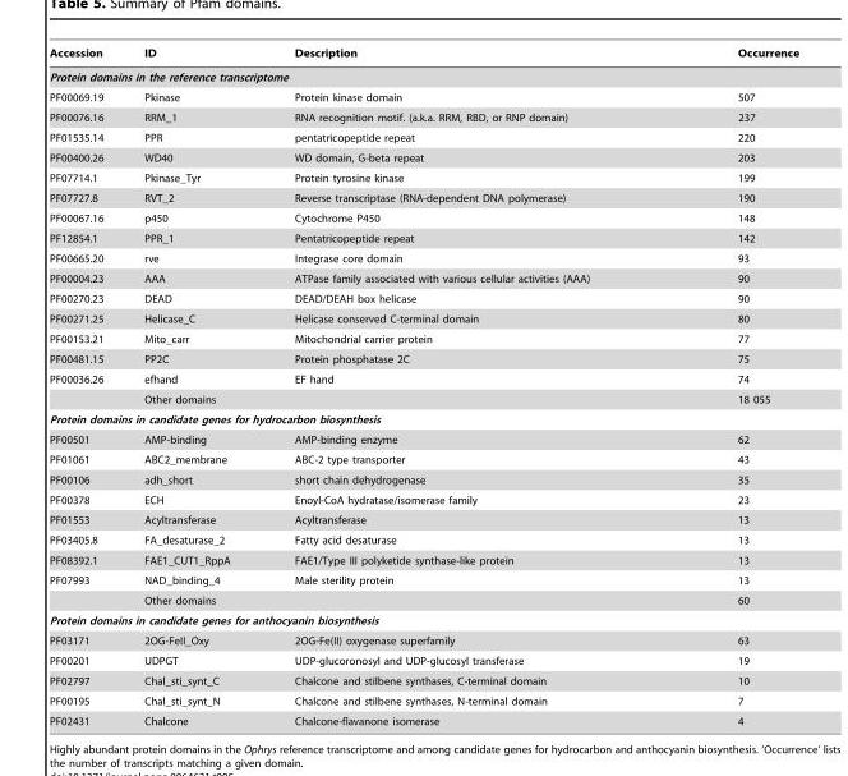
<table><thead><tr><td>Accession</td><td>ID</td><td>Description</td><td>Occurrence</td></tr></thead><tbody><tr><td colspan="4">Protein domains in the reference transcriptome</td></tr><tr><td>PF00069.19</td><td>Pkinase</td><td>Protein kinase domain</td><td>507</td></tr><tr><td>PF00076.16</td><td>RRM_1</td><td>RNA recognition motif. (a.k.a. RRM, RBD, or RNP domain)</td><td>237</td></tr><tr><td>PF01535.14</td><td>PPR</td><td>pentatricopeptide repeat</td><td>220</td></tr><tr><td>PF00400.26</td><td>WD40</td><td>WD domain, G-beta repeat</td><td>203</td></tr><tr><td>PF07714.1</td><td>Pkinase_Tyr</td><td>Protein tyrosine kinase</td><td>199</td></tr><tr><td>PF07727.8</td><td>RVT_2</td><td>Reverse transcriptase (RNA-dependent DNA polymerase)</td><td>190</td></tr><tr><td>PF00067.16</td><td>p450</td><td>Cytochrome P450</td><td>148</td></tr><tr><td>PF12854.1</td><td>PPR_1</td><td>Pentatricopeptide repeat</td><td>142</td></tr><tr><td>PF00665.20</td><td>rve</td><td>Integrase core domain</td><td>93</td></tr><tr><td>PF00004.23</td><td>AAA</td><td>ATPase family associated with various cellular activities (AAA)</td><td>90</td></tr><tr><td>PF00270.23</td><td>DEAD</td><td>DEAD/DEAH box helicase</td><td>90</td></tr><tr><td>PF00271.25</td><td>Helicase_C</td><td>Helicase conserved C-terminal domain</td><td>80</td></tr><tr><td>PF00153.21</td><td>Mito_carr</td><td>Mitochondrial carrier protein</td><td>77</td></tr><tr><td>PF00481.15</td><td>PP2C</td><td>Protein phosphatase 2C</td><td>75</td></tr><tr><td rowspan="2">PF00036.26</td><td>efhand</td><td>EF hand</td><td>74</td></tr><tr><td>Other domains</td><td></td><td>18 055</td></tr><tr><td colspan="4">Protein domains in candidate genes for hydrocarbon biosynthesis</td></tr><tr><td>PF00501</td><td>AMP-binding</td><td>AMP-binding enzyme</td><td>62</td></tr><tr><td>PF01061</td><td>ABC2_membrane</td><td>ABC-2 type transporter</td><td>43</td></tr><tr><td>PF00106</td><td>adh_short</td><td>short chain dehydrogenase</td><td>35</td></tr><tr><td>PF00378</td><td>ECH</td><td>Enoyl-CoA hydratase/isomerase family</td><td>23</td></tr><tr><td>PF01553</td><td>Acyltransferase</td><td>Acyltransferase</td><td>13</td></tr><tr><td>PF03405.8</td><td>FA_desaturase_2</td><td>Fatty acid desaturase</td><td>13</td></tr><tr><td>PF08392.1</td><td>FAE1_CUT1_RppA</td><td>FAE1/Type III polyketide synthase-like protein</td><td>13</td></tr><tr><td rowspan="2">PF07993</td><td>NAD_binding_4</td><td>Male sterility protein</td><td>13</td></tr><tr><td>Other domains</td><td></td><td>60</td></tr><tr><td colspan="4">Protein domains in candidate genes for anthocyanin biosynthesis</td></tr><tr><td>PF03171</td><td>2OG-FeII_Oxy</td><td>2OG-Fe(II) oxygenase superfamily</td><td>63</td></tr><tr><td>PF00201</td><td>UDPGT</td><td>UDP-glucoronosyl and UDP-glucosyl transferase</td><td>19</td></tr><tr><td>PF02797</td><td>Chal_sti_synt_C</td><td>Chalcone and stilbene synthases, C-terminal domain</td><td>10</td></tr><tr><td>PF00195</td><td>Chal_sti_synt_N</td><td>Chalcone and stilbene synthases, N-terminal domain</td><td>7</td></tr><tr><td>PF02431</td><td>Chalcone</td><td>Chalcone-flavanone isomerase</td><td>4</td></tr></tbody></table>